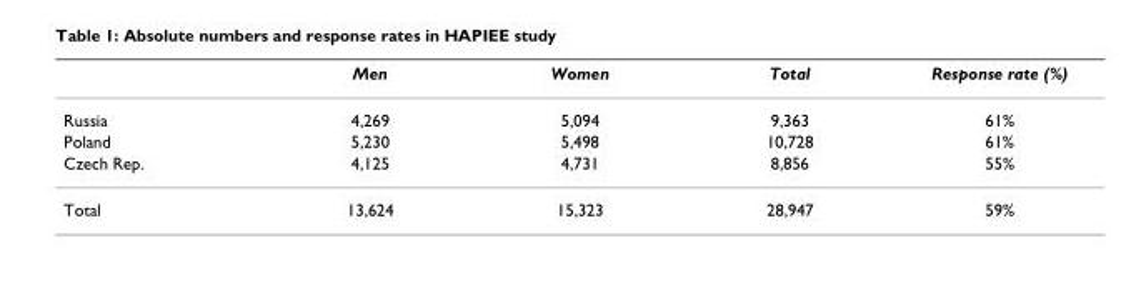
<table><thead><tr><td></td><td>Men</td><td>Women</td><td>Total</td><td>Response rate (%)</td></tr></thead><tbody><tr><td>Russia</td><td>4,269</td><td>5,094</td><td>9,363</td><td>61%</td></tr><tr><td>Poland</td><td>5,230</td><td>5,498</td><td>10,728</td><td>61%</td></tr><tr><td>Czech Rep.</td><td>4,125</td><td>4,731</td><td>8,856</td><td>55%</td></tr><tr><td>Total</td><td>13,624</td><td>15,323</td><td>28,947</td><td>59%</td></tr></tbody></table>